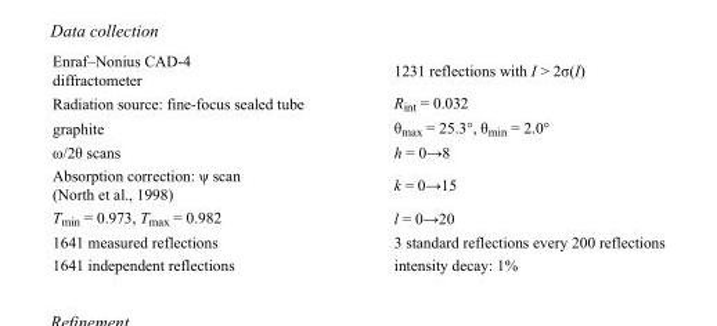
<table><tbody><tr><td>Enraf–Nonius CAD-4 diffractometer</td><td>1231 reflections with I &gt; 2σ(I)</td></tr><tr><td>Radiation source: fine-focus sealed tube</td><td>R<sub>int</sub> = 0.032</td></tr><tr><td>graphite</td><td>θ<sub>max</sub> = 25.3°, θ<sub>min</sub> = 2.0°</td></tr><tr><td>ω/2θ scans</td><td>h = 0→8</td></tr><tr><td>Absorption correction: ψ scan (North et al., 1998)</td><td>k = 0→15</td></tr><tr><td>T<sub>min</sub> = 0.973, T<sub>max</sub> = 0.982</td><td>l = 0→20</td></tr><tr><td>1641 measured reflections</td><td>3 standard reflections every 200 reflections</td></tr><tr><td>1641 independent reflections</td><td>intensity decay: 1%</td></tr></tbody></table>